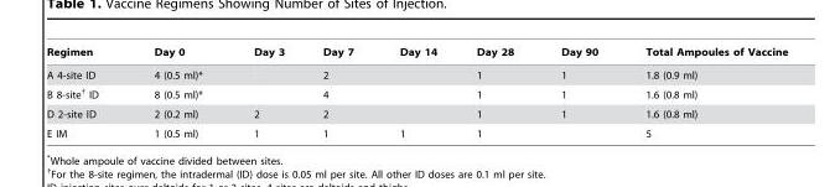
<table><thead><tr><td>Regimen</td><td>Day 0</td><td>Day 3</td><td>Day 7</td><td>Day 14</td><td>Day 28</td><td>Day 90</td><td>Total Ampoules of Vaccine</td></tr></thead><tbody><tr><td>A 4-site ID</td><td>4 (0.5 ml)*</td><td></td><td>2</td><td></td><td>1</td><td>1</td><td>1.8 (0.9 ml)</td></tr><tr><td>B 8-site† ID</td><td>8 (0.5 ml)*</td><td></td><td>4</td><td></td><td>1</td><td>1</td><td>1.6 (0.8 ml)</td></tr><tr><td>D 2-site ID</td><td>2 (0.2 ml)</td><td>2</td><td>2</td><td></td><td>1</td><td>1</td><td>1.6 (0.8 ml)</td></tr><tr><td>E IM</td><td>1 (0.5 ml)</td><td>1</td><td>1</td><td>1</td><td>1</td><td></td><td>5</td></tr></tbody></table>